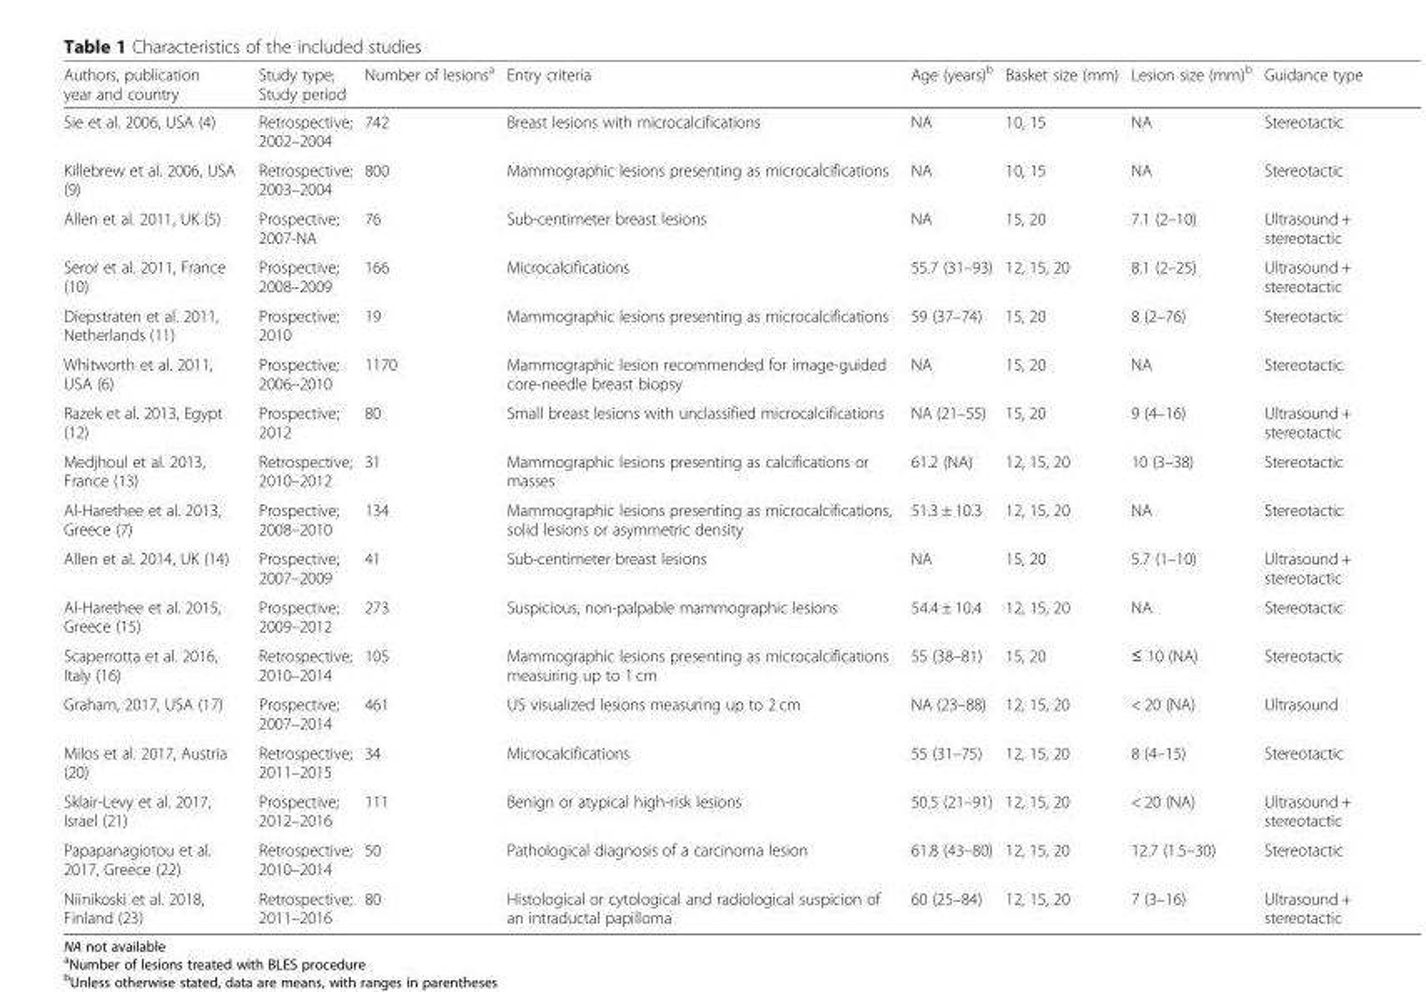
<table><thead><tr><td>Authors, publication year and country</td><td>Study type; Study period</td><td>Number of lesions<sup>a</sup></td><td>Entry criteria</td><td>Age (years)<sup>b</sup></td><td>Basket size (mm)</td><td>Lesion size (mm)<sup>b</sup></td><td>Guidance type</td></tr></thead><tbody><tr><td>Sie et al. 2006, USA (4)</td><td>Retrospective; 2002–2004</td><td>742</td><td>Breast lesions with microcalcifications</td><td>NA</td><td>10, 15</td><td>NA</td><td>Stereotactic</td></tr><tr><td>Killebrew et al. 2006, USA (9)</td><td>Retrospective; 2003–2004</td><td>800</td><td>Mammographic lesions presenting as microcalcifications</td><td>NA</td><td>10, 15</td><td>NA</td><td>Stereotactic</td></tr><tr><td>Allen et al. 2011, UK (5)</td><td>Prospective; 2007-NA</td><td>76</td><td>Sub-centimeter breast lesions</td><td>NA</td><td>15, 20</td><td>7.1 (2–10)</td><td>Ultrasound + stereotactic</td></tr><tr><td>Seror et al. 2011, France (10)</td><td>Prospective; 2008–2009</td><td>166</td><td>Microcalcifications</td><td>55.7 (31–93)</td><td>12, 15, 20</td><td>8.1 (2–25)</td><td>Ultrasound + stereotactic</td></tr><tr><td>Diepstraten et al. 2011, Netherlands (11)</td><td>Prospective; 2010</td><td>19</td><td>Mammographic lesions presenting as microcalcifications</td><td>59 (37–74)</td><td>15, 20</td><td>8 (2–76)</td><td>Stereotactic</td></tr><tr><td>Whitworth et al. 2011, USA (6)</td><td>Prospective; 2006–2010</td><td>1170</td><td>Mammographic lesion recommended for image-guided core-needle breast biopsy</td><td>NA</td><td>15, 20</td><td>NA</td><td>Stereotactic</td></tr><tr><td>Razek et al. 2013, Egypt (12)</td><td>Prospective; 2012</td><td>80</td><td>Small breast lesions with unclassified microcalcifications</td><td>NA (21–55)</td><td>15, 20</td><td>9 (4–16)</td><td>Ultrasound + stereotactic</td></tr><tr><td>Medjhoul et al. 2013, France (13)</td><td>Retrospective; 2010–2012</td><td>31</td><td>Mammographic lesions presenting as calcifications or masses</td><td>61.2 (NA)</td><td>12, 15, 20</td><td>10 (3–38)</td><td>Stereotactic</td></tr><tr><td>Al-Harethee et al. 2013, Greece (7)</td><td>Prospective; 2008–2010</td><td>134</td><td>Mammographic lesions presenting as microcalcifications, solid lesions or asymmetric density</td><td>51.3 ± 10.3</td><td>12, 15, 20</td><td>NA</td><td>Stereotactic</td></tr><tr><td>Allen et al. 2014, UK (14)</td><td>Prospective; 2007–2009</td><td>41</td><td>Sub-centimeter breast lesions</td><td>NA</td><td>15, 20</td><td>5.7 (1–10)</td><td>Ultrasound + stereotactic</td></tr><tr><td>Al-Harethee et al. 2015, Greece (15)</td><td>Prospective; 2009–2012</td><td>273</td><td>Suspicious, non-palpable mammographic lesions</td><td>54.4 ± 10.4</td><td>12, 15, 20</td><td>NA</td><td>Stereotactic</td></tr><tr><td>Scaperrotta et al. 2016, Italy (16)</td><td>Retrospective; 2010–2014</td><td>105</td><td>Mammographic lesions presenting as microcalcifications measuring up to 1 cm</td><td>55 (38–81)</td><td>15, 20</td><td>≤ 10 (NA)</td><td>Stereotactic</td></tr><tr><td>Graham, 2017, USA (17)</td><td>Prospective; 2007–2014</td><td>461</td><td>US visualized lesions measuring up to 2 cm</td><td>NA (23–88)</td><td>12, 15, 20</td><td>&lt; 20 (NA)</td><td>Ultrasound</td></tr><tr><td>Milos et al. 2017, Austria (20)</td><td>Retrospective; 2011–2015</td><td>34</td><td>Microcalcifications</td><td>55 (31–75)</td><td>12, 15, 20</td><td>8 (4–15)</td><td>Stereotactic</td></tr><tr><td>Sklair-Levy et al. 2017, Israel (21)</td><td>Prospective; 2012–2016</td><td>111</td><td>Benign or atypical high-risk lesions</td><td>50.5 (21–91)</td><td>12, 15, 20</td><td>&lt; 20 (NA)</td><td>Ultrasound + stereotactic</td></tr><tr><td>Papapanagiotou et al. 2017, Greece (22)</td><td>Retrospective; 2010–2014</td><td>50</td><td>Pathological diagnosis of a carcinoma lesion</td><td>61.8 (43–80)</td><td>12, 15, 20</td><td>12.7 (1.5–30)</td><td>Stereotactic</td></tr><tr><td>Niinikoski et al. 2018, Finland (23)</td><td>Retrospective; 2011–2016</td><td>80</td><td>Histological or cytological and radiological suspicion of an intraductal papilloma</td><td>60 (25–84)</td><td>12, 15, 20</td><td>7 (3–16)</td><td>Ultrasound + stereotactic</td></tr></tbody></table>